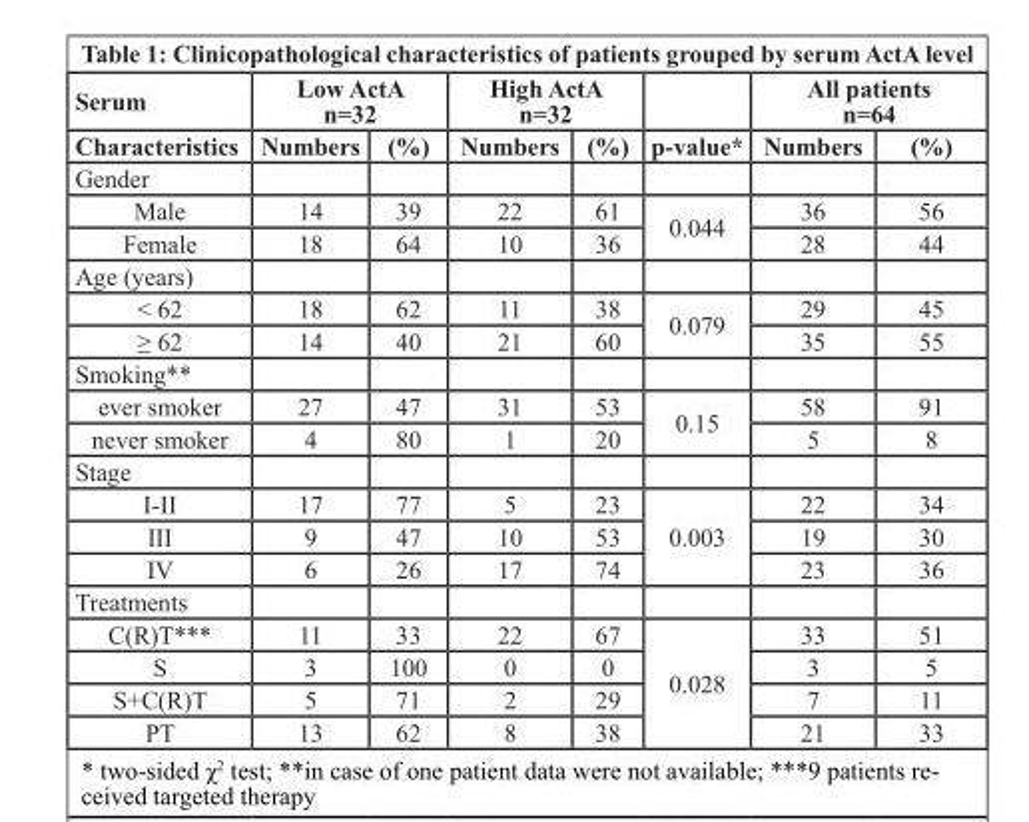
<table><thead><tr><td rowspan="2">Serum Characteristics</td><td colspan="2">Low ActA n=32</td><td colspan="2">High ActA n=32</td><td rowspan="2">p-value*</td><td colspan="2">All patients n=64</td></tr><tr><td>Numbers</td><td>(%)</td><td>Numbers</td><td>(%)</td><td>Numbers</td><td>(%)</td></tr></thead><tbody><tr><td colspan="8">Gender</td></tr><tr><td>Male</td><td>14</td><td>39</td><td>22</td><td>61</td><td rowspan="2">0.044</td><td>36</td><td>56</td></tr><tr><td>Female</td><td>18</td><td>64</td><td>10</td><td>36</td><td>28</td><td>44</td></tr><tr><td colspan="8">Age (years)</td></tr><tr><td>&lt; 62</td><td>18</td><td>62</td><td>11</td><td>38</td><td rowspan="2">0.079</td><td>29</td><td>45</td></tr><tr><td>≥ 62</td><td>14</td><td>40</td><td>21</td><td>60</td><td>35</td><td>55</td></tr><tr><td colspan="8">Smoking**</td></tr><tr><td>ever smoker</td><td>27</td><td>47</td><td>31</td><td>53</td><td rowspan="2">0.15</td><td>58</td><td>91</td></tr><tr><td>never smoker</td><td>4</td><td>80</td><td>1</td><td>20</td><td>5</td><td>8</td></tr><tr><td colspan="8">Stage</td></tr><tr><td>I-II</td><td>17</td><td>77</td><td>5</td><td>23</td><td rowspan="3">0.003</td><td>22</td><td>34</td></tr><tr><td>III</td><td>9</td><td>47</td><td>10</td><td>53</td><td>19</td><td>30</td></tr><tr><td>IV</td><td>6</td><td>26</td><td>17</td><td>74</td><td>23</td><td>36</td></tr><tr><td colspan="8">Treatments</td></tr><tr><td>C(R)T***</td><td>11</td><td>33</td><td>22</td><td>67</td><td rowspan="4">0.028</td><td>33</td><td>51</td></tr><tr><td>S</td><td>3</td><td>100</td><td>0</td><td>0</td><td>3</td><td>5</td></tr><tr><td>S+C(R)T</td><td>5</td><td>71</td><td>2</td><td>29</td><td>7</td><td>11</td></tr><tr><td>PT</td><td>13</td><td>62</td><td>8</td><td>38</td><td>21</td><td>33</td></tr></tbody></table>